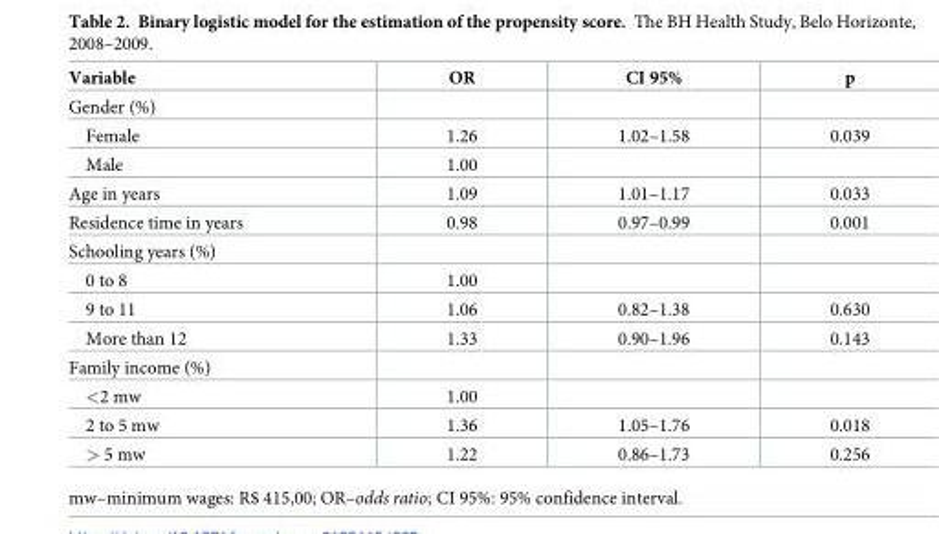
<table><thead><tr><td>Variable</td><td>OR</td><td>CI 95%</td><td>p</td></tr></thead><tbody><tr><td colspan="4">Gender (%)</td></tr><tr><td>Female</td><td>1.26</td><td>1.02–1.58</td><td>0.039</td></tr><tr><td>Male</td><td>1.00</td><td></td><td></td></tr><tr><td>Age in years</td><td>1.09</td><td>1.01–1.17</td><td>0.033</td></tr><tr><td>Residence time in years</td><td>0.98</td><td>0.97–0.99</td><td>0.001</td></tr><tr><td colspan="4">Schooling years (%)</td></tr><tr><td>0 to 8</td><td>1.00</td><td></td><td></td></tr><tr><td>9 to 11</td><td>1.06</td><td>0.82–1.38</td><td>0.630</td></tr><tr><td>More than 12</td><td>1.33</td><td>0.90–1.96</td><td>0.143</td></tr><tr><td colspan="4">Family income (%)</td></tr><tr><td>&lt;2 mw</td><td>1.00</td><td></td><td></td></tr><tr><td>2 to 5 mw</td><td>1.36</td><td>1.05–1.76</td><td>0.018</td></tr><tr><td>&gt; 5 mw</td><td>1.22</td><td>0.86–1.73</td><td>0.256</td></tr></tbody></table>